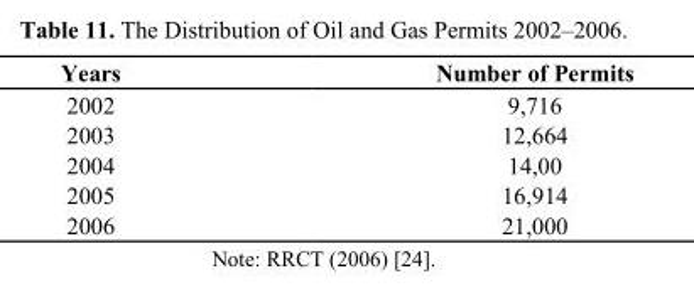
<table><thead><tr><td>Years</td><td>Number of Permits</td></tr></thead><tbody><tr><td>2002</td><td>9,716</td></tr><tr><td>2003</td><td>12,664</td></tr><tr><td>2004</td><td>14,00</td></tr><tr><td>2005</td><td>16,914</td></tr><tr><td>2006</td><td>21,000</td></tr></tbody></table>